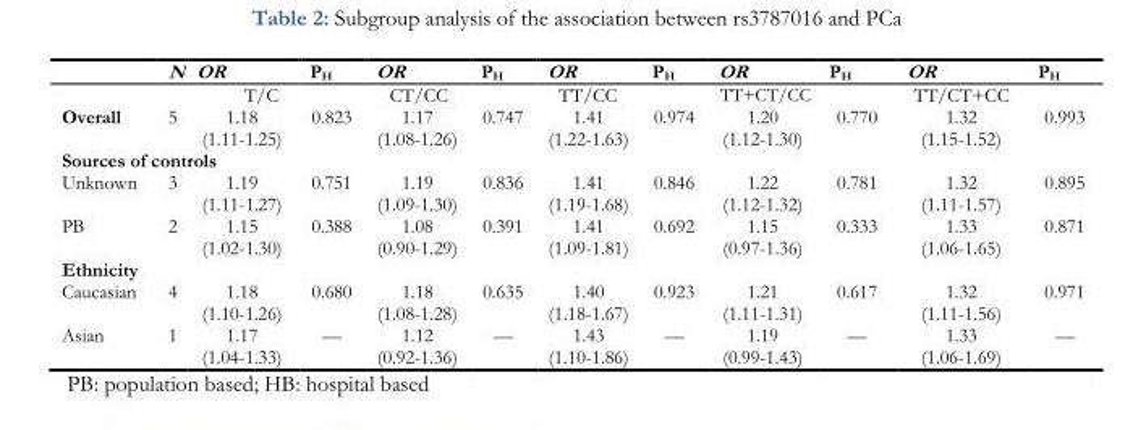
<table><thead><tr><td></td><td>N</td><td>OR</td><td>P<sub>H</sub></td><td>OR</td><td>P<sub>H</sub></td><td>OR</td><td>P<sub>H</sub></td><td>OR</td><td>P<sub>H</sub></td><td>OR</td><td>P<sub>H</sub></td></tr></thead><tbody><tr><td></td><td></td><td>T/C</td><td></td><td>CT/CC</td><td></td><td>TT/CC</td><td></td><td>TT+CT/CC</td><td></td><td>TT/CT+CC</td><td></td></tr><tr><td>Overall</td><td>5</td><td>1.18 (1.11-1.25)</td><td>0.823</td><td>1.17 (1.08-1.26)</td><td>0.747</td><td>1.41 (1.22-1.63)</td><td>0.974</td><td>1.20 (1.12-1.30)</td><td>0.770</td><td>1.32 (1.15-1.52)</td><td>0.993</td></tr><tr><td colspan="12">Sources of controls</td></tr><tr><td>Unknown</td><td>3</td><td>1.19 (1.11-1.27)</td><td>0.751</td><td>1.19 (1.09-1.30)</td><td>0.836</td><td>1.41 (1.19-1.68)</td><td>0.846</td><td>1.22 (1.12-1.32)</td><td>0.781</td><td>1.32 (1.11-1.57)</td><td>0.895</td></tr><tr><td>PB</td><td>2</td><td>1.15 (1.02-1.30)</td><td>0.388</td><td>1.08 (0.90-1.29)</td><td>0.391</td><td>1.41 (1.09-1.81)</td><td>0.692</td><td>1.15 (0.97-1.36)</td><td>0.333</td><td>1.33 (1.06-1.65)</td><td>0.871</td></tr><tr><td colspan="12">Ethnicity</td></tr><tr><td>Caucasian</td><td>4</td><td>1.18 (1.10-1.26)</td><td>0.680</td><td>1.18 (1.08-1.28)</td><td>0.635</td><td>1.40 (1.18-1.67)</td><td>0.923</td><td>1.21 (1.11-1.31)</td><td>0.617</td><td>1.32 (1.11-1.56)</td><td>0.971</td></tr><tr><td>Asian</td><td>1</td><td>1.17 (1.04-1.33)</td><td>—</td><td>1.12 (0.92-1.36)</td><td>—</td><td>1.43 (1.10-1.86)</td><td>—</td><td>1.19 (0.99-1.43)</td><td>—</td><td>1.33 (1.06-1.69)</td><td>—</td></tr></tbody></table>